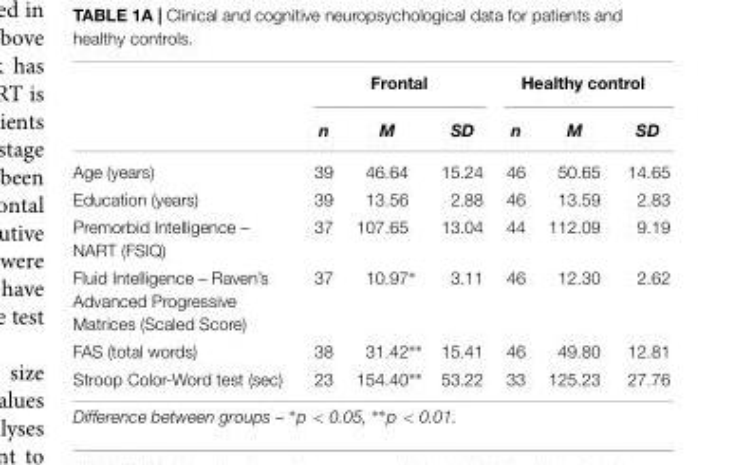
<table><thead><tr><td rowspan="2"></td><td colspan="3">Frontal</td><td colspan="3">Healthy control</td></tr><tr><td>n</td><td>M</td><td>SD</td><td>n</td><td>M</td><td>SD</td></tr></thead><tbody><tr><td>Age (years)</td><td>39</td><td>46.64</td><td>15.24</td><td>46</td><td>50.65</td><td>14.65</td></tr><tr><td>Education (years)</td><td>39</td><td>13.56</td><td>2.88</td><td>46</td><td>13.59</td><td>2.83</td></tr><tr><td>Premorbid Intelligence – NART (FSIQ)</td><td>37</td><td>107.65</td><td>13.04</td><td>44</td><td>112.09</td><td>9.19</td></tr><tr><td>Fluid Intelligence – Raven’s Advanced Progressive Matrices (Scaled Score)</td><td>37</td><td>10.97∗</td><td>3.11</td><td>46</td><td>12.30</td><td>2.62</td></tr><tr><td>FAS (total words)</td><td>38</td><td>31.42∗∗</td><td>15.41</td><td>46</td><td>49.80</td><td>12.81</td></tr><tr><td>Stroop Color-Word test (sec)</td><td>23</td><td>154.40∗∗</td><td>53.22</td><td>33</td><td>125.23</td><td>27.76</td></tr></tbody></table>